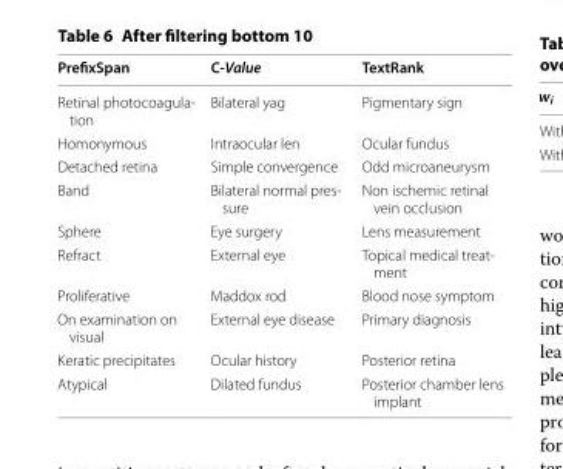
<table><thead><tr><td>PrefixSpan</td><td>C‑Value</td><td>TextRank</td></tr></thead><tbody><tr><td>Retinal photocoagula- tion</td><td>Bilateral yag</td><td>Pigmentary sign</td></tr><tr><td>Homonymous</td><td>Intraocular len</td><td>Ocular fundus</td></tr><tr><td>Detached retina</td><td>Simple convergence</td><td>Odd microaneurysm</td></tr><tr><td>Band</td><td>Bilateral normal pres- sure</td><td>Non ischemic retinal vein occlusion</td></tr><tr><td>Sphere</td><td>Eye surgery</td><td>Lens measurement</td></tr><tr><td>Refract</td><td>External eye</td><td>Topical medical treat- ment</td></tr><tr><td>Proliferative</td><td>Maddox rod</td><td>Blood nose symptom</td></tr><tr><td>On examination on visual</td><td>External eye disease</td><td>Primary diagnosis</td></tr><tr><td>Keratic precipitates</td><td>Ocular history</td><td>Posterior retina</td></tr><tr><td>Atypical</td><td>Dilated fundus</td><td>Posterior chamber lens implant</td></tr></tbody></table>